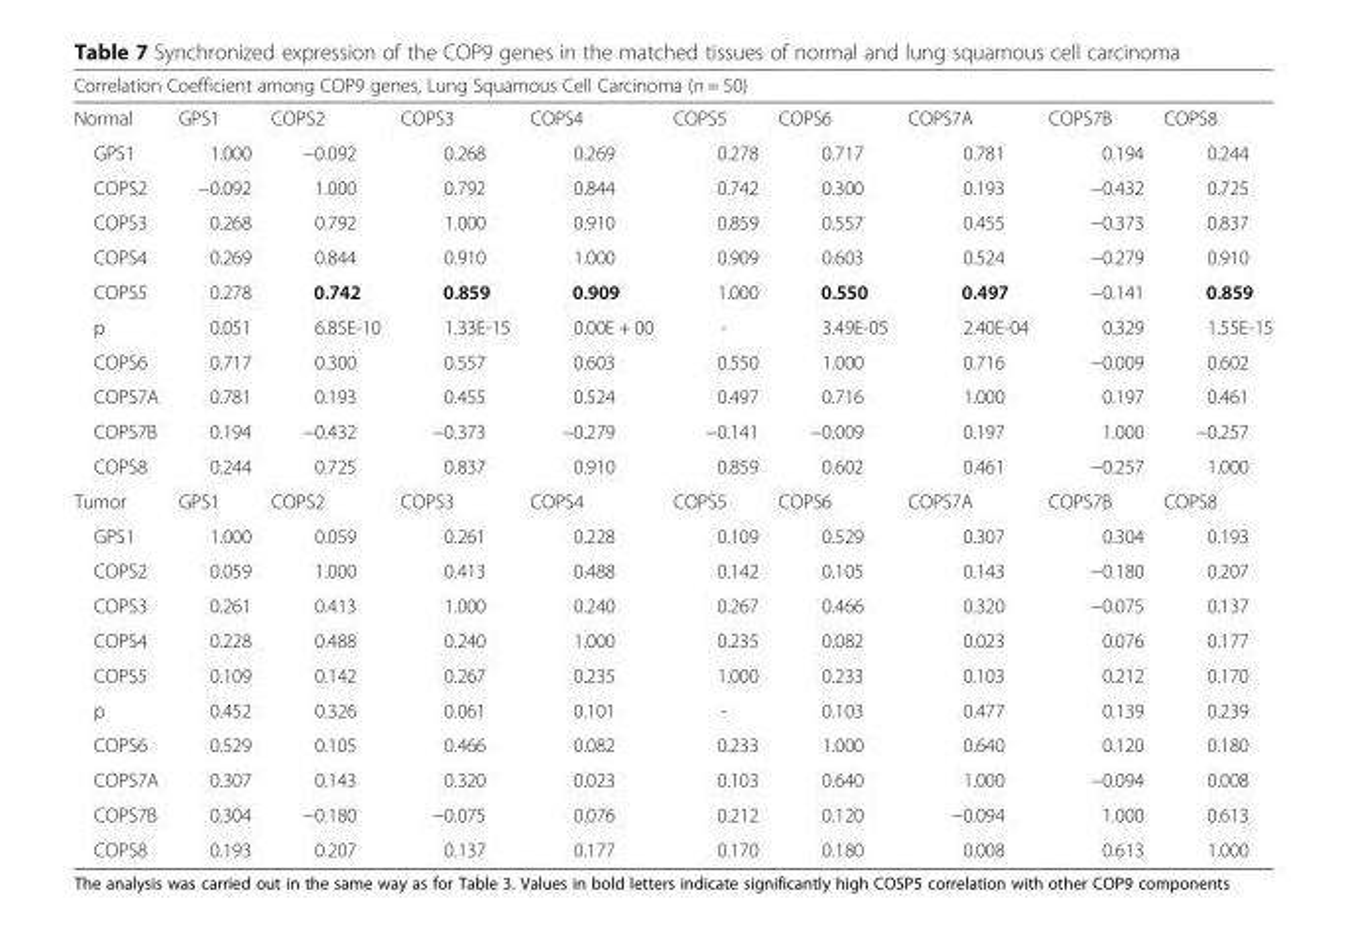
<table><thead><tr><td colspan="10">Correlation Coefficient among COP9 genes, Lung Squamous Cell Carcinoma (n = 50)</td></tr><tr><td>Normal</td><td>GPS1</td><td>COPS2</td><td>COPS3</td><td>COPS4</td><td>COPS5</td><td>COPS6</td><td>COPS7A</td><td>COPS7B</td><td>COPS8</td></tr></thead><tbody><tr><td>GPS1</td><td>1.000</td><td>−0.092</td><td>0.268</td><td>0.269</td><td>0.278</td><td>0.717</td><td>0.781</td><td>0.194</td><td>0.244</td></tr><tr><td>COPS2</td><td>−0.092</td><td>1.000</td><td>0.792</td><td>0.844</td><td>0.742</td><td>0.300</td><td>0.193</td><td>−0.432</td><td>0.725</td></tr><tr><td>COPS3</td><td>0.268</td><td>0.792</td><td>1.000</td><td>0.910</td><td>0.859</td><td>0.557</td><td>0.455</td><td>−0.373</td><td>0.837</td></tr><tr><td>COPS4</td><td>0.269</td><td>0.844</td><td>0.910</td><td>1.000</td><td>0.909</td><td>0.603</td><td>0.524</td><td>−0.279</td><td>0.910</td></tr><tr><td>COPS5</td><td>0.278</td><td>0.742</td><td>0.859</td><td>0.909</td><td>1.000</td><td>0.550</td><td>0.497</td><td>−0.141</td><td>0.859</td></tr><tr><td>p</td><td>0.051</td><td>6.85E-10</td><td>1.33E-15</td><td>0.00E + 00</td><td>-</td><td>3.49E-05</td><td>2.40E-04</td><td>0.329</td><td>1.55E-15</td></tr><tr><td>COPS6</td><td>0.717</td><td>0.300</td><td>0.557</td><td>0.603</td><td>0.550</td><td>1.000</td><td>0.716</td><td>−0.009</td><td>0.602</td></tr><tr><td>COPS7A</td><td>0.781</td><td>0.193</td><td>0.455</td><td>0.524</td><td>0.497</td><td>0.716</td><td>1.000</td><td>0.197</td><td>0.461</td></tr><tr><td>COPS7B</td><td>0.194</td><td>−0.432</td><td>−0.373</td><td>−0.279</td><td>−0.141</td><td>−0.009</td><td>0.197</td><td>1.000</td><td>−0.257</td></tr><tr><td>COPS8</td><td>0.244</td><td>0.725</td><td>0.837</td><td>0.910</td><td>0.859</td><td>0.602</td><td>0.461</td><td>−0.257</td><td>1.000</td></tr><tr><td>Tumor</td><td>GPS1</td><td>COPS2</td><td>COPS3</td><td>COPS4</td><td>COPS5</td><td>COPS6</td><td>COPS7A</td><td>COPS7B</td><td>COPS8</td></tr><tr><td>GPS1</td><td>1.000</td><td>0.059</td><td>0.261</td><td>0.228</td><td>0.109</td><td>0.529</td><td>0.307</td><td>0.304</td><td>0.193</td></tr><tr><td>COPS2</td><td>0.059</td><td>1.000</td><td>0.413</td><td>0.488</td><td>0.142</td><td>0.105</td><td>0.143</td><td>−0.180</td><td>0.207</td></tr><tr><td>COPS3</td><td>0.261</td><td>0.413</td><td>1.000</td><td>0.240</td><td>0.267</td><td>0.466</td><td>0.320</td><td>−0.075</td><td>0.137</td></tr><tr><td>COPS4</td><td>0.228</td><td>0.488</td><td>0.240</td><td>1.000</td><td>0.235</td><td>0.082</td><td>0.023</td><td>0.076</td><td>0.177</td></tr><tr><td>COPS5</td><td>0.109</td><td>0.142</td><td>0.267</td><td>0.235</td><td>1.000</td><td>0.233</td><td>0.103</td><td>0.212</td><td>0.170</td></tr><tr><td>p</td><td>0.452</td><td>0.326</td><td>0.061</td><td>0.101</td><td>-</td><td>0.103</td><td>0.477</td><td>0.139</td><td>0.239</td></tr><tr><td>COPS6</td><td>0.529</td><td>0.105</td><td>0.466</td><td>0.082</td><td>0.233</td><td>1.000</td><td>0.640</td><td>0.120</td><td>0.180</td></tr><tr><td>COPS7A</td><td>0.307</td><td>0.143</td><td>0.320</td><td>0.023</td><td>0.103</td><td>0.640</td><td>1.000</td><td>−0.094</td><td>0.008</td></tr><tr><td>COPS7B</td><td>0.304</td><td>−0.180</td><td>−0.075</td><td>0.076</td><td>0.212</td><td>0.120</td><td>−0.094</td><td>1.000</td><td>0.613</td></tr><tr><td>COPS8</td><td>0.193</td><td>0.207</td><td>0.137</td><td>0.177</td><td>0.170</td><td>0.180</td><td>0.008</td><td>0.613</td><td>1.000</td></tr></tbody></table>